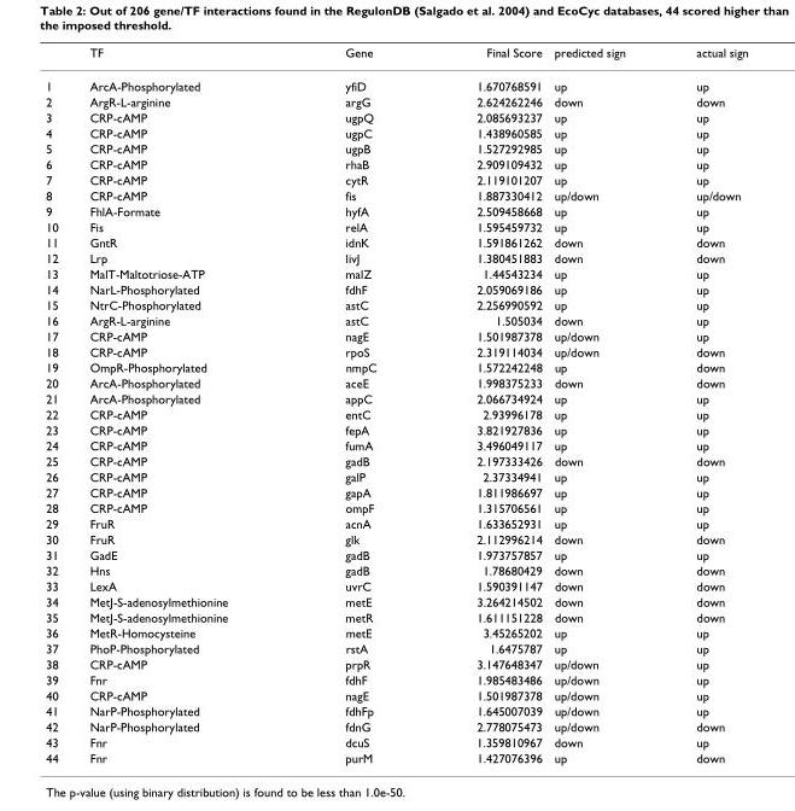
<table><thead><tr><td></td><td>TF</td><td>Gene</td><td>Final Score</td><td>predicted sign</td><td>actual sign</td></tr></thead><tbody><tr><td>1</td><td>ArcA-Phosphorylated</td><td>yfiD</td><td>1.670768591</td><td>up</td><td>up</td></tr><tr><td>2</td><td>ArgR-L-arginine</td><td>argG</td><td>2.624262246</td><td>down</td><td>down</td></tr><tr><td>3</td><td>CRP-cAMP</td><td>ugpQ</td><td>2.085693237</td><td>up</td><td>up</td></tr><tr><td>4</td><td>CRP-cAMP</td><td>ugpC</td><td>1.438960585</td><td>up</td><td>up</td></tr><tr><td>5</td><td>CRP-cAMP</td><td>ugpB</td><td>1.527292985</td><td>up</td><td>up</td></tr><tr><td>6</td><td>CRP-cAMP</td><td>rhaB</td><td>2.909109432</td><td>up</td><td>up</td></tr><tr><td>7</td><td>CRP-cAMP</td><td>cytR</td><td>2.119101207</td><td>up</td><td>up</td></tr><tr><td>8</td><td>CRP-cAMP</td><td>fis</td><td>1.887330412</td><td>up/down</td><td>up/down</td></tr><tr><td>9</td><td>FhlA-Formate</td><td>hyfA</td><td>2.509458668</td><td>up</td><td>up</td></tr><tr><td>10</td><td>Fis</td><td>relA</td><td>1.595459732</td><td>up</td><td>up</td></tr><tr><td>11</td><td>GntR</td><td>idnK</td><td>1.591861262</td><td>down</td><td>down</td></tr><tr><td>12</td><td>Lrp</td><td>livJ</td><td>1.380451883</td><td>down</td><td>down</td></tr><tr><td>13</td><td>MalT-Maltotriose-ATP</td><td>malZ</td><td>1.44543234</td><td>up</td><td>up</td></tr><tr><td>14</td><td>NarL-Phosphorylated</td><td>fdhF</td><td>2.059069186</td><td>up</td><td>up</td></tr><tr><td>15</td><td>NtrC-Phosphorylated</td><td>astC</td><td>2.256990592</td><td>up</td><td>up</td></tr><tr><td>16</td><td>ArgR-L-arginine</td><td>astC</td><td>1.505034</td><td>down</td><td>up</td></tr><tr><td>17</td><td>CRP-cAMP</td><td>nagE</td><td>1.501987378</td><td>up/down</td><td>up</td></tr><tr><td>18</td><td>CRP-cAMP</td><td>rpoS</td><td>2.319114034</td><td>up/down</td><td>down</td></tr><tr><td>19</td><td>OmpR-Phosphorylated</td><td>nmpC</td><td>1.572242248</td><td>up</td><td>down</td></tr><tr><td>20</td><td>ArcA-Phosphorylated</td><td>aceE</td><td>1.998375233</td><td>down</td><td>down</td></tr><tr><td>21</td><td>ArcA-Phosphorylated</td><td>appC</td><td>2.066734924</td><td>up</td><td>up</td></tr><tr><td>22</td><td>CRP-cAMP</td><td>entC</td><td>2.93996178</td><td>up</td><td>up</td></tr><tr><td>23</td><td>CRP-cAMP</td><td>fepA</td><td>3.821927836</td><td>up</td><td>up</td></tr><tr><td>24</td><td>CRP-cAMP</td><td>fumA</td><td>3.496049117</td><td>up</td><td>up</td></tr><tr><td>25</td><td>CRP-cAMP</td><td>gadB</td><td>2.197333426</td><td>down</td><td>down</td></tr><tr><td>26</td><td>CRP-cAMP</td><td>galP</td><td>2.37334941</td><td>up</td><td>up</td></tr><tr><td>27</td><td>CRP-cAMP</td><td>gapA</td><td>1.811986697</td><td>up</td><td>up</td></tr><tr><td>28</td><td>CRP-cAMP</td><td>ompF</td><td>1.315706561</td><td>up</td><td>up</td></tr><tr><td>29</td><td>FruR</td><td>acnA</td><td>1.633652931</td><td>up</td><td>up</td></tr><tr><td>30</td><td>FruR</td><td>glk</td><td>2.112996214</td><td>down</td><td>down</td></tr><tr><td>31</td><td>GadE</td><td>gadB</td><td>1.973757857</td><td>up</td><td>up</td></tr><tr><td>32</td><td>Hns</td><td>gadB</td><td>1.78680429</td><td>down</td><td>down</td></tr><tr><td>33</td><td>LexA</td><td>uvrC</td><td>1.590391147</td><td>down</td><td>down</td></tr><tr><td>34</td><td>MetJ-S-adenosylmethionine</td><td>metE</td><td>3.264214502</td><td>down</td><td>down</td></tr><tr><td>35</td><td>MetJ-S-adenosylmethionine</td><td>metR</td><td>1.611151228</td><td>down</td><td>down</td></tr><tr><td>36</td><td>MetR-Homocysteine</td><td>metE</td><td>3.45265202</td><td>up</td><td>up</td></tr><tr><td>37</td><td>PhoP-Phosphorylated</td><td>rstA</td><td>1.6475787</td><td>up</td><td>up</td></tr><tr><td>38</td><td>CRP-cAMP</td><td>prpR</td><td>3.147648347</td><td>up/down</td><td>up</td></tr><tr><td>39</td><td>Fnr</td><td>fdhF</td><td>1.985483486</td><td>up/down</td><td>up</td></tr><tr><td>40</td><td>CRP-cAMP</td><td>nagE</td><td>1.501987378</td><td>up/down</td><td>up</td></tr><tr><td>41</td><td>NarP-Phosphorylated</td><td>fdhFp</td><td>1.645007039</td><td>up/down</td><td>up</td></tr><tr><td>42</td><td>NarP-Phosphorylated</td><td>fdnG</td><td>2.778075473</td><td>up/down</td><td>down</td></tr><tr><td>43</td><td>Fnr</td><td>dcuS</td><td>1.359810967</td><td>down</td><td>up</td></tr><tr><td>44</td><td>Fnr</td><td>purM</td><td>1.427076396</td><td>up</td><td>down</td></tr></tbody></table>